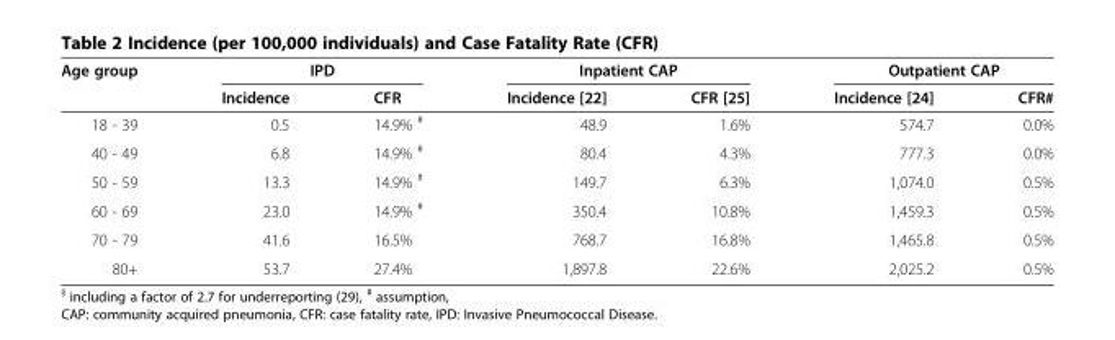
<table><thead><tr><td rowspan="2">Age group</td><td colspan="2">IPD</td><td colspan="2">Inpatient CAP</td><td colspan="2">Outpatient CAP</td></tr><tr><td>Incidence</td><td>CFR</td><td>Incidence [22]</td><td>CFR [25]</td><td>Incidence [24]</td><td>CFR#</td></tr></thead><tbody><tr><td>18 - 39</td><td>0.5</td><td>14.9% <sup>#</sup></td><td>48.9</td><td>1.6%</td><td>574.7</td><td>0.0%</td></tr><tr><td>40 - 49</td><td>6.8</td><td>14.9% <sup>#</sup></td><td>80.4</td><td>4.3%</td><td>777.3</td><td>0.0%</td></tr><tr><td>50 - 59</td><td>13.3</td><td>14.9% <sup>#</sup></td><td>149.7</td><td>6.3%</td><td>1,074.0</td><td>0.5%</td></tr><tr><td>60 - 69</td><td>23.0</td><td>14.9% <sup>#</sup></td><td>350.4</td><td>10.8%</td><td>1,459.3</td><td>0.5%</td></tr><tr><td>70 - 79</td><td>41.6</td><td>16.5%</td><td>768.7</td><td>16.8%</td><td>1,465.8</td><td>0.5%</td></tr><tr><td>80+</td><td>53.7</td><td>27.4%</td><td>1,897.8</td><td>22.6%</td><td>2,025.2</td><td>0.5%</td></tr></tbody></table>